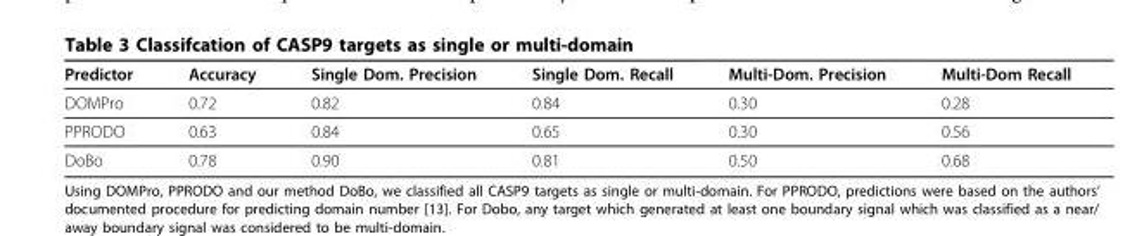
<table><thead><tr><td>Predictor</td><td>Accuracy</td><td>Single Dom. Precision</td><td>Single Dom. Recall</td><td>Multi-Dom. Precision</td><td>Multi-Dom Recall</td></tr></thead><tbody><tr><td>DOMPro</td><td>0.72</td><td>0.82</td><td>0.84</td><td>0.30</td><td>0.28</td></tr><tr><td>PPRODO</td><td>0.63</td><td>0.84</td><td>0.65</td><td>0.30</td><td>0.56</td></tr><tr><td>DoBo</td><td>0.78</td><td>0.90</td><td>0.81</td><td>0.50</td><td>0.68</td></tr></tbody></table>